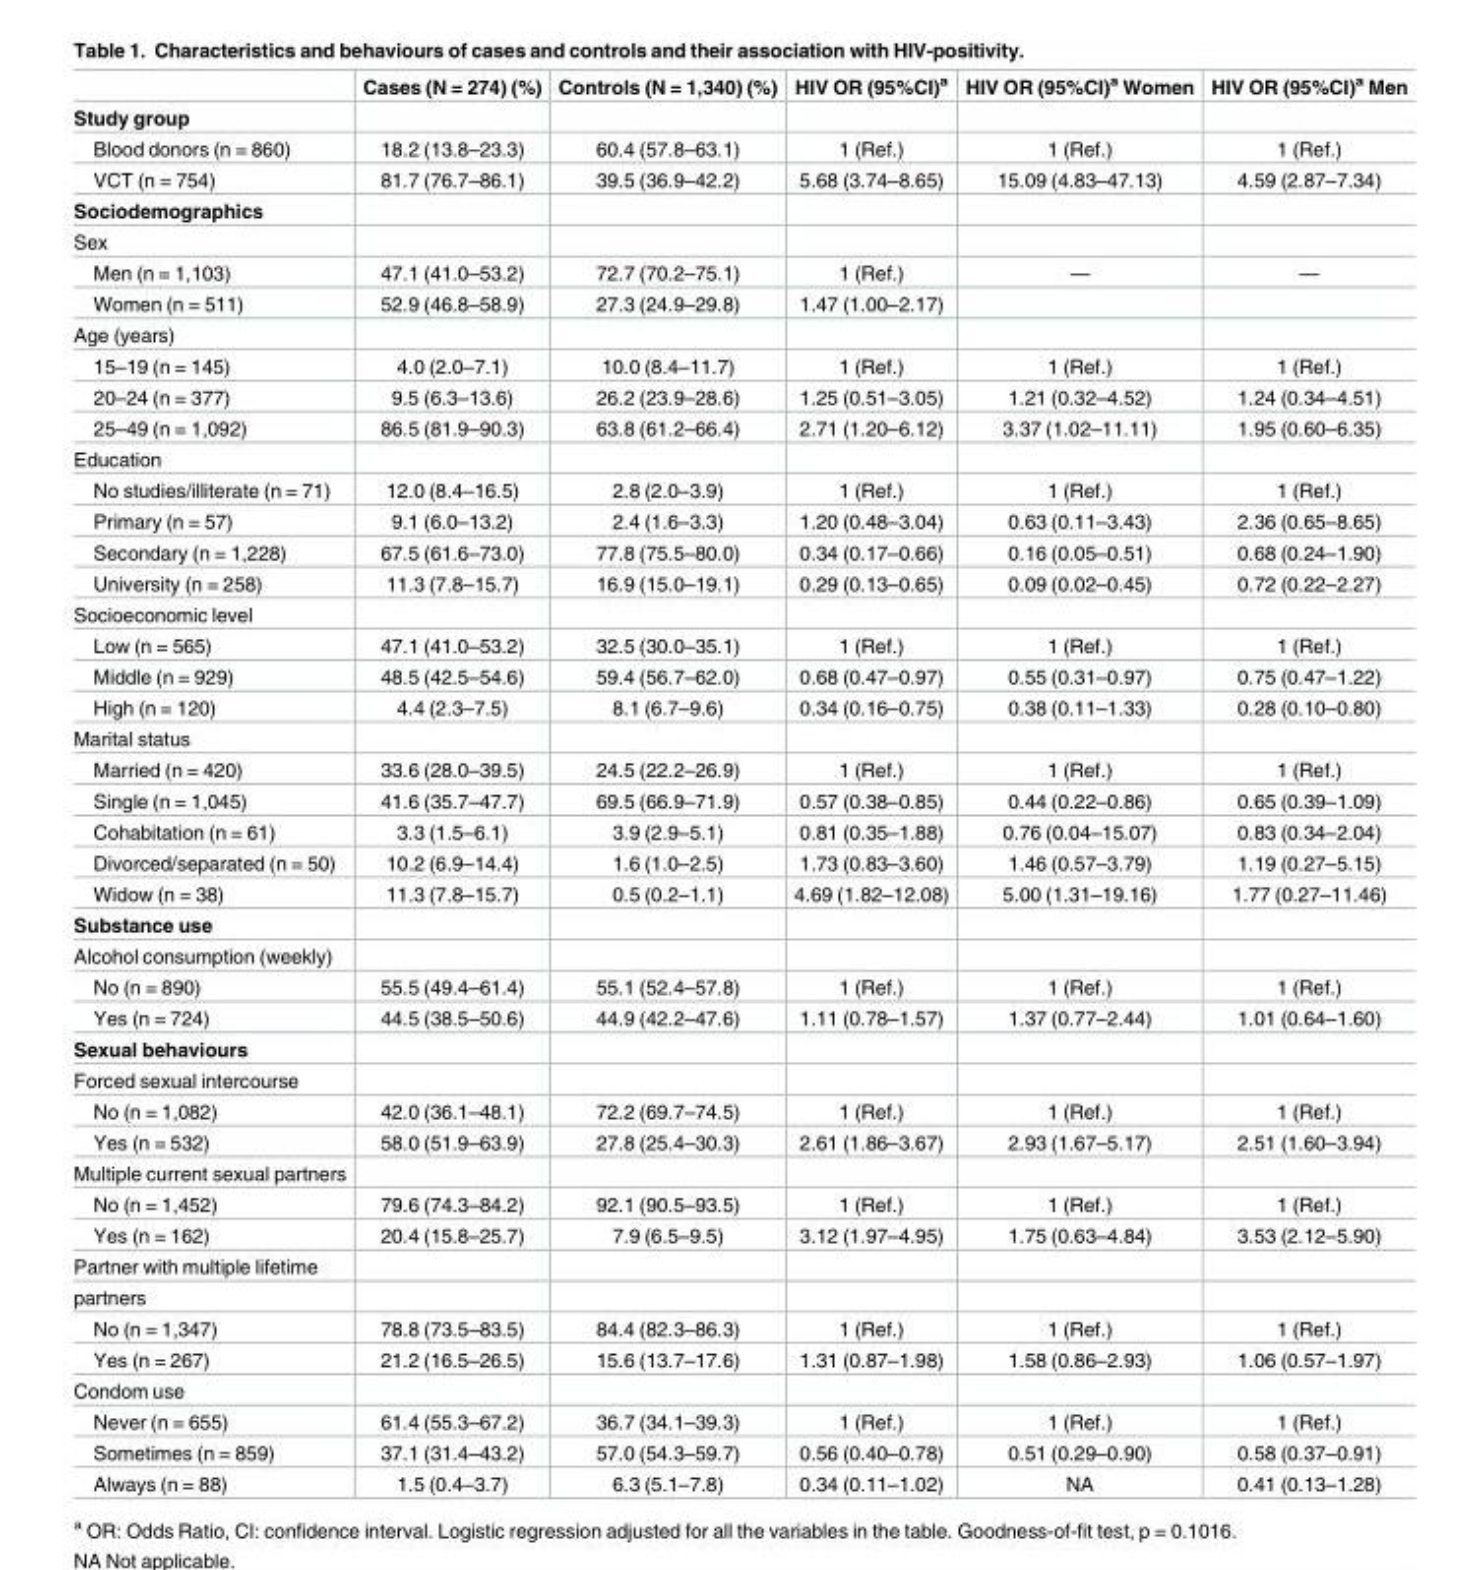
<table><thead><tr><td></td><td>Cases (N = 274) (%)</td><td>Controls (N = 1,340) (%)</td><td>HIV OR (95%CI)<sup>a</sup></td><td>HIV OR (95%CI)<sup>a</sup> Women</td><td>HIV OR (95%CI)<sup>a</sup> Men</td></tr></thead><tbody><tr><td colspan="6">Study group</td></tr><tr><td>Blood donors (n = 860)</td><td>18.2 (13.8–23.3)</td><td>60.4 (57.8–63.1)</td><td>1 (Ref.)</td><td>1 (Ref.)</td><td>1 (Ref.)</td></tr><tr><td>VCT (n = 754)</td><td>81.7 (76.7–86.1)</td><td>39.5 (36.9–42.2)</td><td>5.68 (3.74–8.65)</td><td>15.09 (4.83–47.13)</td><td>4.59 (2.87–7.34)</td></tr><tr><td colspan="6">Sociodemographics</td></tr><tr><td colspan="6">Sex</td></tr><tr><td>Men (n = 1,103)</td><td>47.1 (41.0–53.2)</td><td>72.7 (70.2–75.1)</td><td>1 (Ref.)</td><td>—</td><td>—</td></tr><tr><td>Women (n = 511)</td><td>52.9 (46.8–58.9)</td><td>27.3 (24.9–29.8)</td><td>1.47 (1.00–2.17)</td><td></td><td></td></tr><tr><td colspan="6">Age (years)</td></tr><tr><td>15–19 (n = 145)</td><td>4.0 (2.0–7.1)</td><td>10.0 (8.4–11.7)</td><td>1 (Ref.)</td><td>1 (Ref.)</td><td>1 (Ref.)</td></tr><tr><td>20–24 (n = 377)</td><td>9.5 (6.3–13.6)</td><td>26.2 (23.9–28.6)</td><td>1.25 (0.51–3.05)</td><td>1.21 (0.32–4.52)</td><td>1.24 (0.34–4.51)</td></tr><tr><td>25–49 (n = 1,092)</td><td>86.5 (81.9–90.3)</td><td>63.8 (61.2–66.4)</td><td>2.71 (1.20–6.12)</td><td>3.37 (1.02–11.11)</td><td>1.95 (0.60–6.35)</td></tr><tr><td colspan="6">Education</td></tr><tr><td>No studies/illiterate (n = 71)</td><td>12.0 (8.4–16.5)</td><td>2.8 (2.0–3.9)</td><td>1 (Ref.)</td><td>1 (Ref.)</td><td>1 (Ref.)</td></tr><tr><td>Primary (n = 57)</td><td>9.1 (6.0–13.2)</td><td>2.4 (1.6–3.3)</td><td>1.20 (0.48–3.04)</td><td>0.63 (0.11–3.43)</td><td>2.36 (0.65–8.65)</td></tr><tr><td>Secondary (n = 1,228)</td><td>67.5 (61.6–73.0)</td><td>77.8 (75.5–80.0)</td><td>0.34 (0.17–0.66)</td><td>0.16 (0.05–0.51)</td><td>0.68 (0.24–1.90)</td></tr><tr><td>University (n = 258)</td><td>11.3 (7.8–15.7)</td><td>16.9 (15.0–19.1)</td><td>0.29 (0.13–0.65)</td><td>0.09 (0.02–0.45)</td><td>0.72 (0.22–2.27)</td></tr><tr><td colspan="6">Socioeconomic level</td></tr><tr><td>Low (n = 565)</td><td>47.1 (41.0–53.2)</td><td>32.5 (30.0–35.1)</td><td>1 (Ref.)</td><td>1 (Ref.)</td><td>1 (Ref.)</td></tr><tr><td>Middle (n = 929)</td><td>48.5 (42.5–54.6)</td><td>59.4 (56.7–62.0)</td><td>0.68 (0.47–0.97)</td><td>0.55 (0.31–0.97)</td><td>0.75 (0.47–1.22)</td></tr><tr><td>High (n = 120)</td><td>4.4 (2.3–7.5)</td><td>8.1 (6.7–9.6)</td><td>0.34 (0.16–0.75)</td><td>0.38 (0.11–1.33)</td><td>0.28 (0.10–0.80)</td></tr><tr><td colspan="6">Marital status</td></tr><tr><td>Married (n = 420)</td><td>33.6 (28.0–39.5)</td><td>24.5 (22.2–26.9)</td><td>1 (Ref.)</td><td>1 (Ref.)</td><td>1 (Ref.)</td></tr><tr><td>Single (n = 1,045)</td><td>41.6 (35.7–47.7)</td><td>69.5 (66.9–71.9)</td><td>0.57 (0.38–0.85)</td><td>0.44 (0.22–0.86)</td><td>0.65 (0.39–1.09)</td></tr><tr><td>Cohabitation (n = 61)</td><td>3.3 (1.5–6.1)</td><td>3.9 (2.9–5.1)</td><td>0.81 (0.35–1.88)</td><td>0.76 (0.04–15.07)</td><td>0.83 (0.34–2.04)</td></tr><tr><td>Divorced/separated (n = 50)</td><td>10.2 (6.9–14.4)</td><td>1.6 (1.0–2.5)</td><td>1.73 (0.83–3.60)</td><td>1.46 (0.57–3.79)</td><td>1.19 (0.27–5.15)</td></tr><tr><td>Widow (n = 38)</td><td>11.3 (7.8–15.7)</td><td>0.5 (0.2–1.1)</td><td>4.69 (1.82–12.08)</td><td>5.00 (1.31–19.16)</td><td>1.77 (0.27–11.46)</td></tr><tr><td colspan="6">Substance use</td></tr><tr><td colspan="6">Alcohol consumption (weekly)</td></tr><tr><td>No (n = 890)</td><td>55.5 (49.4–61.4)</td><td>55.1 (52.4–57.8)</td><td>1 (Ref.)</td><td>1 (Ref.)</td><td>1 (Ref.)</td></tr><tr><td>Yes (n = 724)</td><td>44.5 (38.5–50.6)</td><td>44.9 (42.2–47.6)</td><td>1.11 (0.78–1.57)</td><td>1.37 (0.77–2.44)</td><td>1.01 (0.64–1.60)</td></tr><tr><td colspan="6">Sexual behaviours</td></tr><tr><td colspan="6">Forced sexual intercourse</td></tr><tr><td>No (n = 1,082)</td><td>42.0 (36.1–48.1)</td><td>72.2 (69.7–74.5)</td><td>1 (Ref.)</td><td>1 (Ref.)</td><td>1 (Ref.)</td></tr><tr><td>Yes (n = 532)</td><td>58.0 (51.9–63.9)</td><td>27.8 (25.4–30.3)</td><td>2.61 (1.86–3.67)</td><td>2.93 (1.67–5.17)</td><td>2.51 (1.60–3.94)</td></tr><tr><td colspan="6">Multiple current sexual partners</td></tr><tr><td>No (n = 1,452)</td><td>79.6 (74.3–84.2)</td><td>92.1 (90.5–93.5)</td><td>1 (Ref.)</td><td>1 (Ref.)</td><td>1 (Ref.)</td></tr><tr><td>Yes (n = 162)</td><td>20.4 (15.8–25.7)</td><td>7.9 (6.5–9.5)</td><td>3.12 (1.97–4.95)</td><td>1.75 (0.63–4.84)</td><td>3.53 (2.12–5.90)</td></tr><tr><td colspan="6">Partner with multiple lifetime</td></tr><tr><td colspan="6">partners</td></tr><tr><td>No (n = 1,347)</td><td>78.8 (73.5–83.5)</td><td>84.4 (82.3–86.3)</td><td>1 (Ref.)</td><td>1 (Ref.)</td><td>1 (Ref.)</td></tr><tr><td>Yes (n = 267)</td><td>21.2 (16.5–26.5)</td><td>15.6 (13.7–17.6)</td><td>1.31 (0.87–1.98)</td><td>1.58 (0.86–2.93)</td><td>1.06 (0.57–1.97)</td></tr><tr><td colspan="6">Condom use</td></tr><tr><td>Never (n = 655)</td><td>61.4 (55.3–67.2)</td><td>36.7 (34.1–39.3)</td><td>1 (Ref.)</td><td>1 (Ref.)</td><td>1 (Ref.)</td></tr><tr><td>Sometimes (n = 859)</td><td>37.1 (31.4–43.2)</td><td>57.0 (54.3–59.7)</td><td>0.56 (0.40–0.78)</td><td>0.51 (0.29–0.90)</td><td>0.58 (0.37–0.91)</td></tr><tr><td>Always (n = 88)</td><td>1.5 (0.4–3.7)</td><td>6.3 (5.1–7.8)</td><td>0.34 (0.11–1.02)</td><td>NA</td><td>0.41 (0.13–1.28)</td></tr></tbody></table>